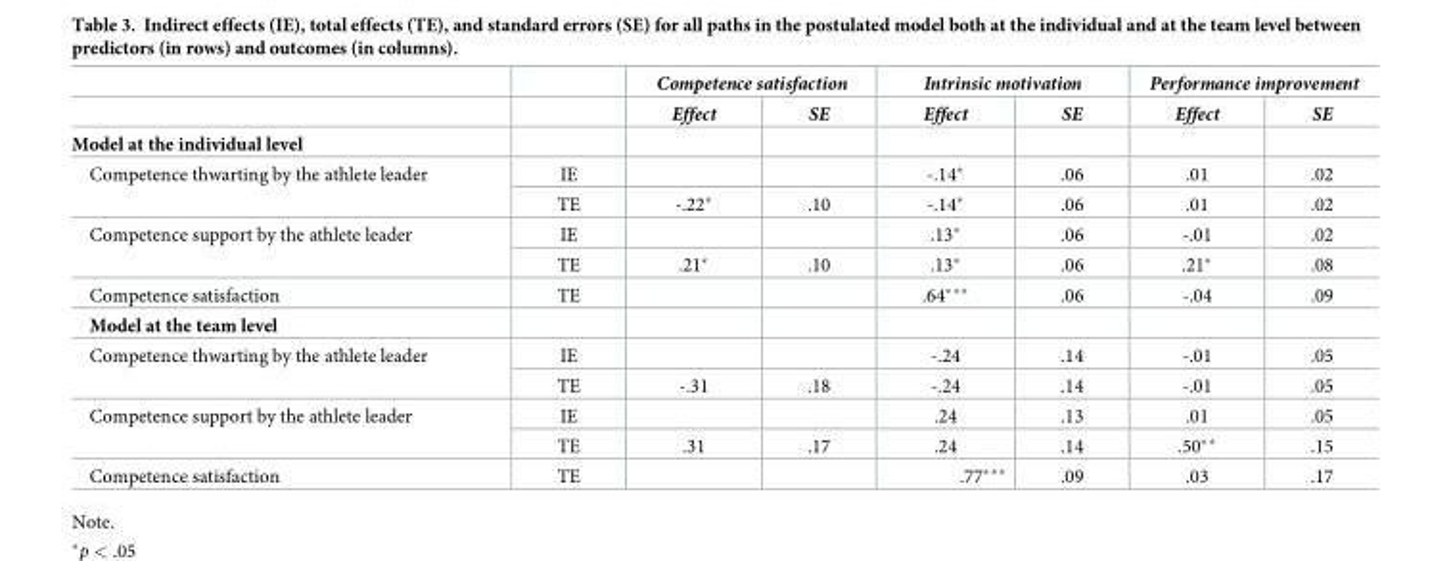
<table><thead><tr><td rowspan="2"></td><td rowspan="2"></td><td colspan="2">Competence satisfaction</td><td colspan="2">Intrinsic motivation</td><td colspan="2">Performance improvement</td></tr><tr><td>Effect</td><td>SE</td><td>Effect</td><td>SE</td><td>Effect</td><td>SE</td></tr></thead><tbody><tr><td colspan="8">Model at the individual level</td></tr><tr><td rowspan="2">Competence thwarting by the athlete leader</td><td>IE</td><td></td><td></td><td>-.14*</td><td>.06</td><td>.01</td><td>.02</td></tr><tr><td>TE</td><td>-.22*</td><td>.10</td><td>-.14*</td><td>.06</td><td>.01</td><td>.02</td></tr><tr><td rowspan="2">Competence support by the athlete leader</td><td>IE</td><td></td><td></td><td>.13*</td><td>.06</td><td>-.01</td><td>.02</td></tr><tr><td>TE</td><td>.21*</td><td>.10</td><td>.13*</td><td>.06</td><td>.21*</td><td>.08</td></tr><tr><td>Competence satisfaction</td><td>TE</td><td></td><td></td><td>.64***</td><td>.06</td><td>-.04</td><td>.09</td></tr><tr><td colspan="8">Model at the team level</td></tr><tr><td rowspan="2">Competence thwarting by the athlete leader</td><td>IE</td><td></td><td></td><td>-.24</td><td>.14</td><td>-.01</td><td>.05</td></tr><tr><td>TE</td><td>-.31</td><td>.18</td><td>-.24</td><td>.14</td><td>-.01</td><td>.05</td></tr><tr><td rowspan="2">Competence support by the athlete leader</td><td>IE</td><td></td><td></td><td>.24</td><td>.13</td><td>.01</td><td>.05</td></tr><tr><td>TE</td><td>.31</td><td>.17</td><td>.24</td><td>.14</td><td>.50**</td><td>.15</td></tr><tr><td>Competence satisfaction</td><td>TE</td><td></td><td></td><td>.77***</td><td>.09</td><td>.03</td><td>.17</td></tr></tbody></table>